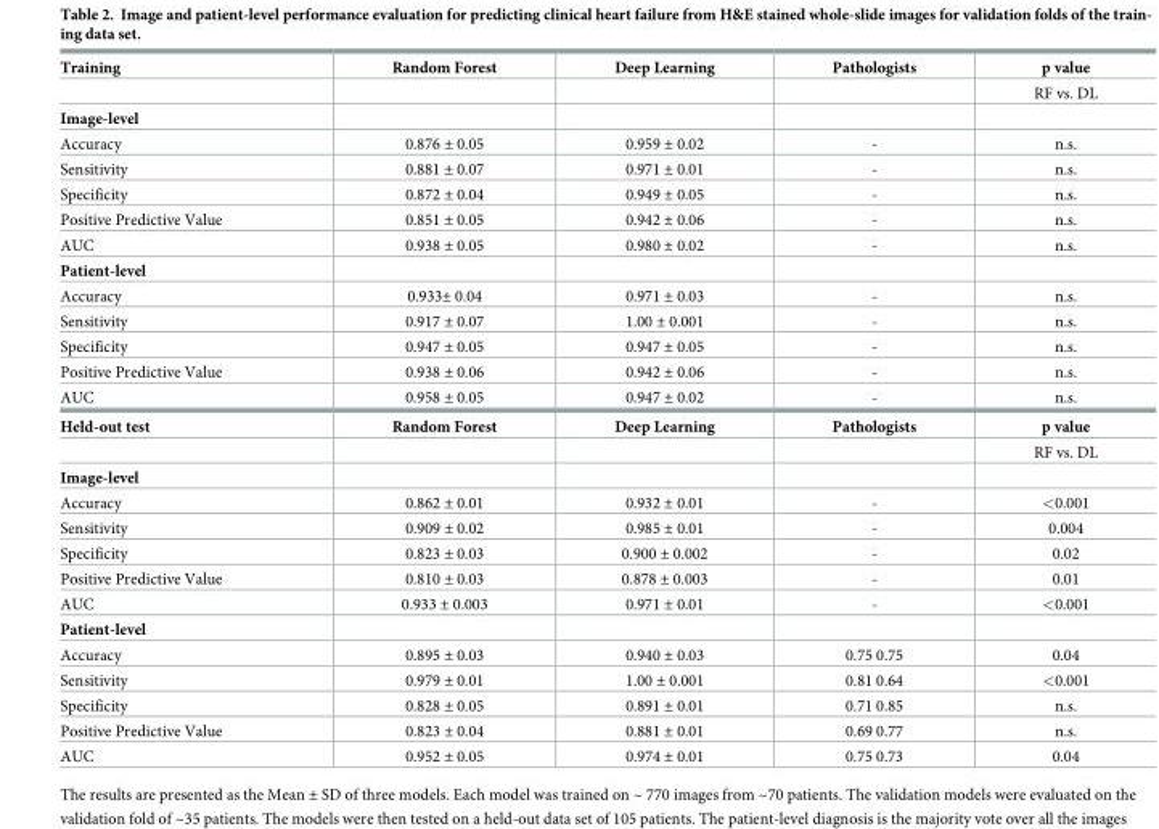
<table><tbody><tr><td rowspan="2">Training</td><td>Random Forest</td><td>Deep Learning</td><td>Pathologists</td><td>p value</td></tr><tr><td></td><td></td><td></td><td>RF vs. DL</td></tr><tr><td colspan="5">Image-level</td></tr><tr><td>Accuracy</td><td>0.876 ± 0.05</td><td>0.959 ± 0.02</td><td>-</td><td>n.s.</td></tr><tr><td>Sensitivity</td><td>0.881 ± 0.07</td><td>0.971 ± 0.01</td><td>-</td><td>n.s.</td></tr><tr><td>Specificity</td><td>0.872 ± 0.04</td><td>0.949 ± 0.05</td><td>-</td><td>n.s.</td></tr><tr><td>Positive Predictive Value</td><td>0.851 ± 0.05</td><td>0.942 ± 0.06</td><td>-</td><td>n.s.</td></tr><tr><td>AUC</td><td>0.938 ± 0.05</td><td>0.980 ± 0.02</td><td>-</td><td>n.s.</td></tr><tr><td colspan="5">Patient-level</td></tr><tr><td>Accuracy</td><td>0.933± 0.04</td><td>0.971 ± 0.03</td><td>-</td><td>n.s.</td></tr><tr><td>Sensitivity</td><td>0.917 ± 0.07</td><td>1.00 ± 0.001</td><td>-</td><td>n.s.</td></tr><tr><td>Specificity</td><td>0.947 ± 0.05</td><td>0.947 ± 0.05</td><td>-</td><td>n.s.</td></tr><tr><td>Positive Predictive Value</td><td>0.938 ± 0.06</td><td>0.942 ± 0.06</td><td>-</td><td>n.s.</td></tr><tr><td>AUC</td><td>0.958 ± 0.05</td><td>0.947 ± 0.02</td><td>-</td><td>n.s.</td></tr><tr><td rowspan="2">Held-out test</td><td>Random Forest</td><td>Deep Learning</td><td>Pathologists</td><td>p value</td></tr><tr><td></td><td></td><td></td><td>RF vs. DL</td></tr><tr><td colspan="5">Image-level</td></tr><tr><td>Accuracy</td><td>0.862 ± 0.01</td><td>0.932 ± 0.01</td><td>-</td><td>&lt;0.001</td></tr><tr><td>Sensitivity</td><td>0.909 ± 0.02</td><td>0.985 ± 0.01</td><td>-</td><td>0.004</td></tr><tr><td>Specificity</td><td>0.823 ± 0.03</td><td>0.900 ± 0.002</td><td>-</td><td>0.02</td></tr><tr><td>Positive Predictive Value</td><td>0.810 ± 0.03</td><td>0.878 ± 0.003</td><td>-</td><td>0.01</td></tr><tr><td>AUC</td><td>0.933 ± 0.003</td><td>0.971 ± 0.01</td><td>-</td><td>&lt;0.001</td></tr><tr><td colspan="5">Patient-level</td></tr><tr><td>Accuracy</td><td>0.895 ± 0.03</td><td>0.940 ± 0.03</td><td>0.75 0.75</td><td>0.04</td></tr><tr><td>Sensitivity</td><td>0.979 ± 0.01</td><td>1.00 ± 0.001</td><td>0.81 0.64</td><td>&lt;0.001</td></tr><tr><td>Specificity</td><td>0.828 ± 0.05</td><td>0.891 ± 0.01</td><td>0.71 0.85</td><td>n.s.</td></tr><tr><td>Positive Predictive Value</td><td>0.823 ± 0.04</td><td>0.881 ± 0.01</td><td>0.69 0.77</td><td>n.s.</td></tr><tr><td>AUC</td><td>0.952 ± 0.05</td><td>0.974 ± 0.01</td><td>0.75 0.73</td><td>0.04</td></tr></tbody></table>